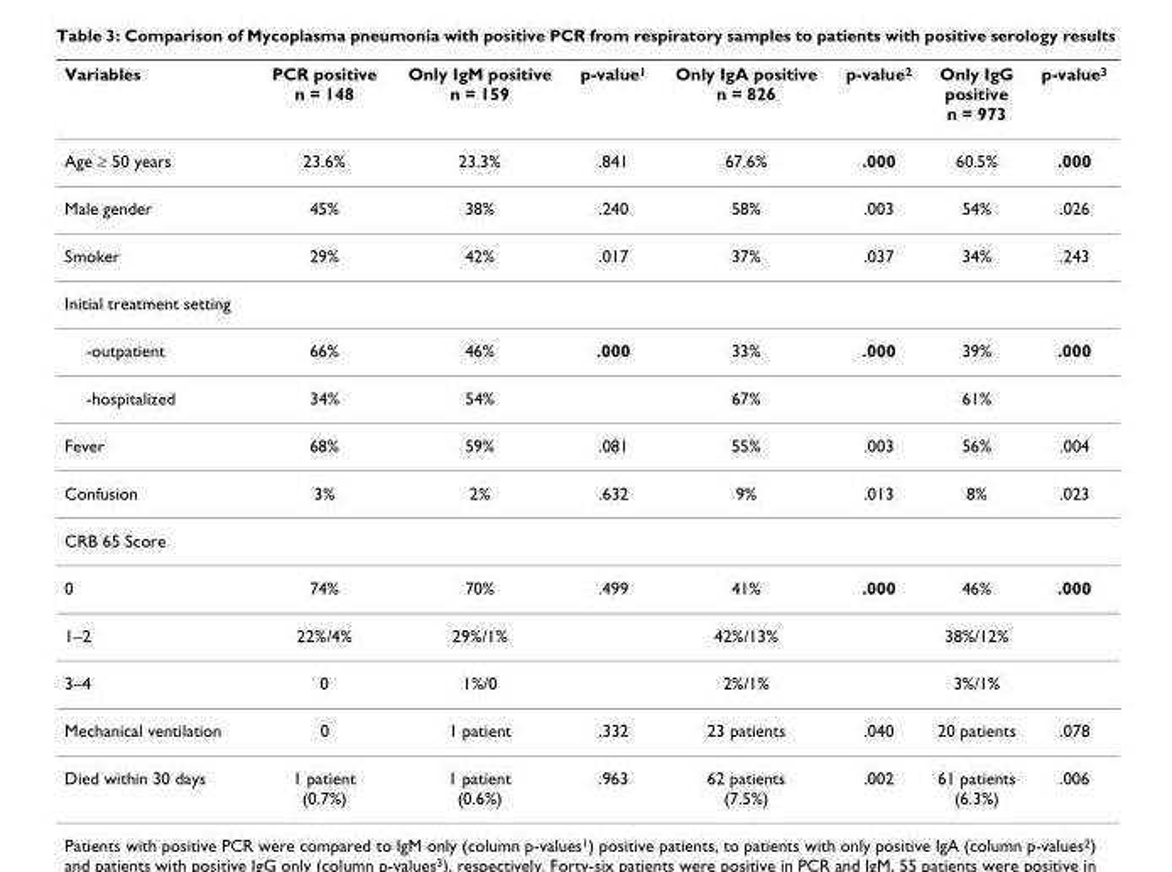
<table><thead><tr><td>Variables</td><td>PCR positive n = 148</td><td>Only IgM positive n = 159</td><td>p-value<sup>1</sup></td><td>Only IgA positive n = 826</td><td>p-value<sup>2</sup></td><td>Only IgG positive n = 973</td><td>p-value<sup>3</sup></td></tr></thead><tbody><tr><td>Age ≥ 50 years</td><td>23.6%</td><td>23.3%</td><td>.841</td><td>67.6%</td><td>.000</td><td>60.5%</td><td>.000</td></tr><tr><td>Male gender</td><td>45%</td><td>38%</td><td>.240</td><td>58%</td><td>.003</td><td>54%</td><td>.026</td></tr><tr><td>Smoker</td><td>29%</td><td>42%</td><td>.017</td><td>37%</td><td>.037</td><td>34%</td><td>.243</td></tr><tr><td colspan="8">Initial treatment setting</td></tr><tr><td>-outpatient</td><td>66%</td><td>46%</td><td>.000</td><td>33%</td><td>.000</td><td>39%</td><td>.000</td></tr><tr><td>-hospitalized</td><td>34%</td><td>54%</td><td></td><td>67%</td><td></td><td>61%</td><td></td></tr><tr><td>Fever</td><td>68%</td><td>59%</td><td>.081</td><td>55%</td><td>.003</td><td>56%</td><td>.004</td></tr><tr><td>Confusion</td><td>3%</td><td>2%</td><td>.632</td><td>9%</td><td>.013</td><td>8%</td><td>.023</td></tr><tr><td colspan="8">CRB 65 Score</td></tr><tr><td>0</td><td>74%</td><td>70%</td><td>.499</td><td>41%</td><td>.000</td><td>46%</td><td>.000</td></tr><tr><td>1–2</td><td>22%/4%</td><td>29%/1%</td><td></td><td>42%/13%</td><td></td><td>38%/12%</td><td></td></tr><tr><td>3–4</td><td>0</td><td>1%/0</td><td></td><td>2%/1%</td><td></td><td>3%/1%</td><td></td></tr><tr><td>Mechanical ventilation</td><td>0</td><td>1 patient</td><td>.332</td><td>23 patients</td><td>.040</td><td>20 patients</td><td>.078</td></tr><tr><td>Died within 30 days</td><td>1 patient (0.7%)</td><td>1 patient (0.6%)</td><td>.963</td><td>62 patients (7.5%)</td><td>.002</td><td>61 patients (6.3%)</td><td>.006</td></tr></tbody></table>